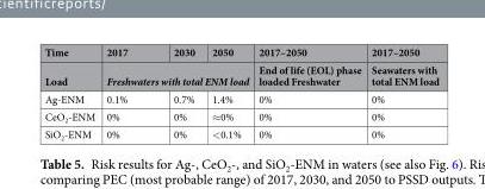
<table><thead><tr><td rowspan="2">Time Load</td><td>2017</td><td>2030</td><td>2050</td><td rowspan="2">2017–2050 End of life (EOL) phase loaded Freshwater</td><td rowspan="2">2017–2050 Seawaters with total ENM load</td></tr><tr><td colspan="3">Freshwaters with total ENM load</td></tr></thead><tbody><tr><td>Ag-ENM</td><td>0.1%</td><td>0.7%</td><td>1.4%</td><td>0%</td><td>0%</td></tr><tr><td>CeO<sub>2</sub>-ENM</td><td>0%</td><td>0%</td><td>≈0%</td><td>0%</td><td>0%</td></tr><tr><td>SiO<sub>2</sub>-ENM</td><td>0%</td><td>0%</td><td>&lt;0.1%</td><td>0%</td><td>0%</td></tr></tbody></table>